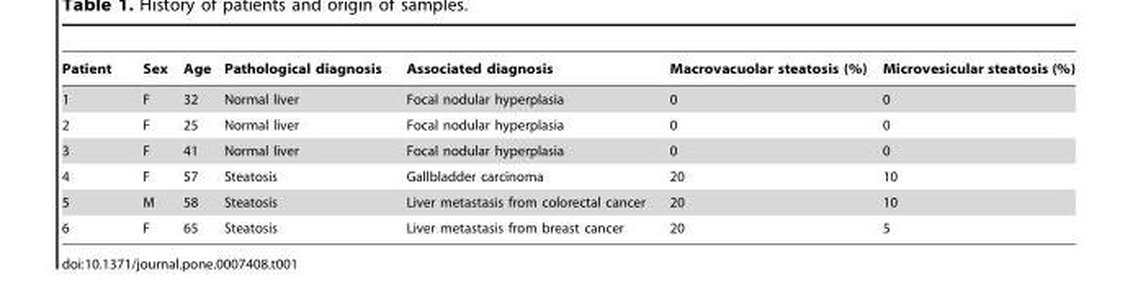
<table><thead><tr><td>Patient</td><td>Sex</td><td>Age</td><td>Pathological diagnosis</td><td>Associated diagnosis</td><td>Macrovacuolar steatosis (%)</td><td>Microvesicular steatosis (%)</td></tr></thead><tbody><tr><td>1</td><td>F</td><td>32</td><td>Normal liver</td><td>Focal nodular hyperplasia</td><td>0</td><td>0</td></tr><tr><td>2</td><td>F</td><td>25</td><td>Normal liver</td><td>Focal nodular hyperplasia</td><td>0</td><td>0</td></tr><tr><td>3</td><td>F</td><td>41</td><td>Normal liver</td><td>Focal nodular hyperplasia</td><td>0</td><td>0</td></tr><tr><td>4</td><td>F</td><td>57</td><td>Steatosis</td><td>Gallbladder carcinoma</td><td>20</td><td>10</td></tr><tr><td>5</td><td>M</td><td>58</td><td>Steatosis</td><td>Liver metastasis from colorectal cancer</td><td>20</td><td>10</td></tr><tr><td>6</td><td>F</td><td>65</td><td>Steatosis</td><td>Liver metastasis from breast cancer</td><td>20</td><td>5</td></tr></tbody></table>